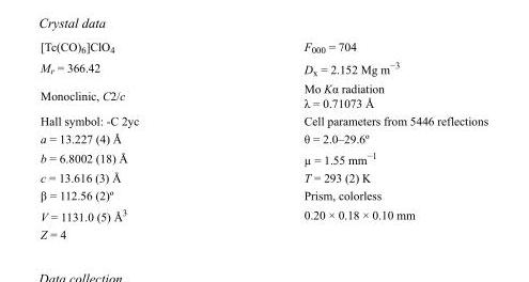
<table><tbody><tr><td>[Tc(CO)<sub>6</sub>]ClO<sub>4</sub></td><td>F<sub>000</sub> = 704</td></tr><tr><td>M<sub>r</sub> = 366.42</td><td>D<sub>x</sub> = 2.152 Mg m<sup>−3</sup></td></tr><tr><td>Monoclinic, C2/c</td><td>Mo Kα radiation λ = 0.71073 Å</td></tr><tr><td>Hall symbol: -C 2yc</td><td>Cell parameters from 5446 reflections</td></tr><tr><td>a = 13.227 (4) Å</td><td>θ = 2.0–29.6º</td></tr><tr><td>b = 6.8002 (18) Å</td><td>µ = 1.55 mm<sup>−1</sup></td></tr><tr><td>c = 13.616 (3) Å</td><td>T = 293 (2) K</td></tr><tr><td>β = 112.56 (2)º</td><td>Prism, colorless</td></tr><tr><td>V = 1131.0 (5) Å<sup>3</sup></td><td>0.20 × 0.18 × 0.10 mm</td></tr><tr><td>Z = 4</td><td></td></tr></tbody></table>